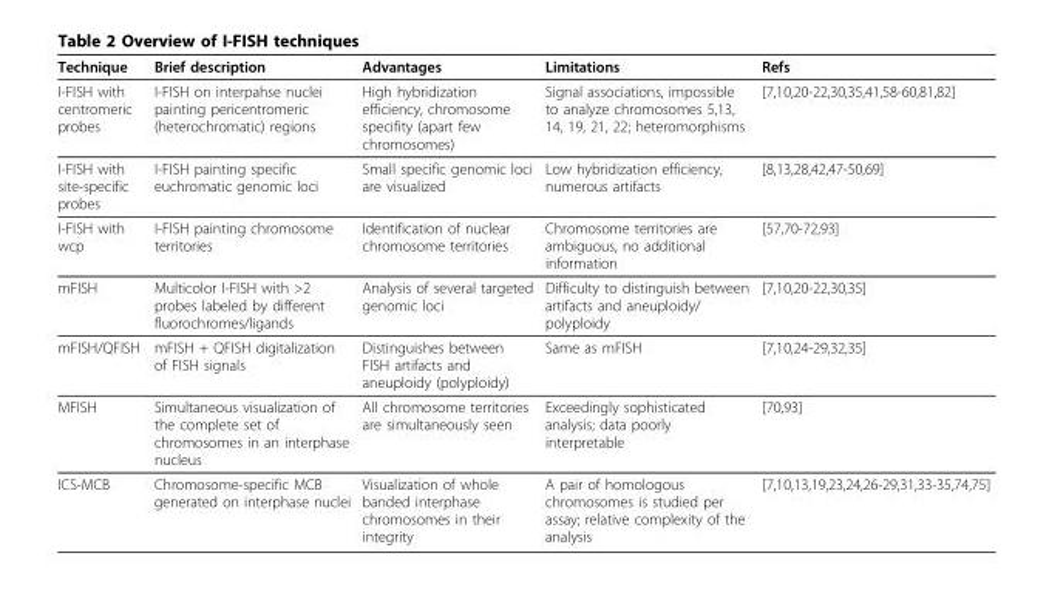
<table><thead><tr><td>Technique</td><td>Brief description</td><td>Advantages</td><td>Limitations</td><td>Refs</td></tr></thead><tbody><tr><td>I-FISH with centromeric probes</td><td>I-FISH on interpahse nuclei painting pericentromeric (heterochromatic) regions</td><td>High hybridization efficiency, chromosome specifity (apart few chromosomes)</td><td>Signal associations, impossible to analyze chromosomes 5,13, 14, 19, 21, 22; heteromorphisms</td><td>[7,10,20-22,30,35,41,58-60,81,82]</td></tr><tr><td>I-FISH with site-specific probes</td><td>I-FISH painting specific euchromatic genomic loci</td><td>Small specific genomic loci are visualized</td><td>Low hybridization efficiency, numerous artifacts</td><td>[8,13,28,42,47-50,69]</td></tr><tr><td>I-FISH with wcp</td><td>I-FISH painting chromosome territories</td><td>Identification of nuclear chromosome territories</td><td>Chromosome territories are ambiguous, no additional information</td><td>[57,70-72,93]</td></tr><tr><td>mFISH</td><td>Multicolor I-FISH with &gt;2 probes labeled by different fluorochromes/ligands</td><td>Analysis of several targeted genomic loci</td><td>Difficulty to distinguish between artifacts and aneuploidy/ polyploidy</td><td>[7,10,20-22,30,35]</td></tr><tr><td>mFISH/QFISH</td><td>mFISH + QFISH digitalization of FISH signals</td><td>Distinguishes between FISH artifacts and aneuploidy (polyploidy)</td><td>Same as mFISH</td><td>[7,10,24-29,32,35]</td></tr><tr><td>MFISH</td><td>Simultaneous visualization of the complete set of chromosomes in an interphase nucleus</td><td>All chromosome territories are simultaneously seen</td><td>Exceedingly sophisticated analysis; data poorly interpretable</td><td>[70,93]</td></tr><tr><td>ICS-MCB</td><td>Chromosome-specific MCB generated on interphase nuclei</td><td>Visualization of whole banded interphase chromosomes in their integrity</td><td>A pair of homologous chromosomes is studied per assay; relative complexity of the analysis</td><td>[7,10,13,19,23,24,26-29,31,33-35,74,75]</td></tr></tbody></table>